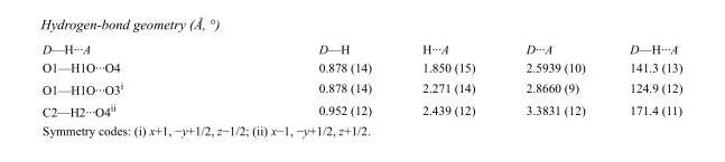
<table><tbody><tr><td>D—H···A</td><td>D—H</td><td>H···A</td><td>D···A</td><td>D—H···A</td></tr><tr><td>O1—H1O···O4</td><td>0.878 (14)</td><td>1.850 (15)</td><td>2.5939 (10)</td><td>141.3 (13)</td></tr><tr><td>O1—H1O···O3<sup>i</sup></td><td>0.878 (14)</td><td>2.271 (14)</td><td>2.8660 (9)</td><td>124.9 (12)</td></tr><tr><td>C2—H2···O4<sup>ii</sup></td><td>0.952 (12)</td><td>2.439 (12)</td><td>3.3831 (12)</td><td>171.4 (11)</td></tr></tbody></table>